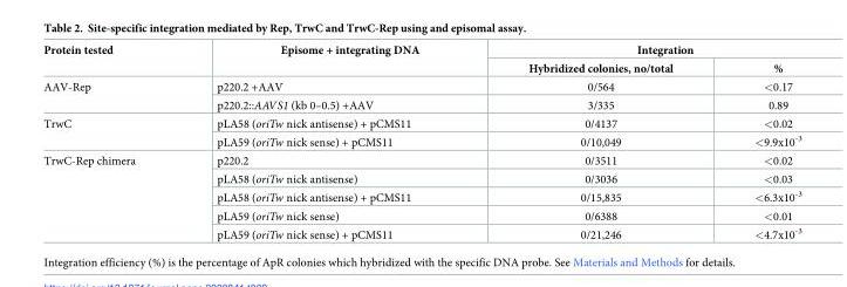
<table><thead><tr><td rowspan="2">Protein tested</td><td rowspan="2">Episome + integrating DNA</td><td colspan="2">Integration</td></tr><tr><td>Hybridized colonies, no/total</td><td>%</td></tr></thead><tbody><tr><td rowspan="2">AAV-Rep</td><td>p220.2 +AAV</td><td>0/564</td><td>&lt;0.17</td></tr><tr><td>p220.2::AAVS1 (kb 0–0.5) +AAV</td><td>3/335</td><td>0.89</td></tr><tr><td rowspan="2">TrwC</td><td>pLA58 (oriTw nick antisense) + pCMS11</td><td>0/4137</td><td>&lt;0.02</td></tr><tr><td>pLA59 (oriTw nick sense) + pCMS11</td><td>0/10,049</td><td>&lt;9.9x10<sup>-3</sup></td></tr><tr><td rowspan="5">TrwC-Rep chimera</td><td>p220.2</td><td>0/3511</td><td>&lt;0.02</td></tr><tr><td>pLA58 (oriTw nick antisense)</td><td>0/3036</td><td>&lt;0.03</td></tr><tr><td>pLA58 (oriTw nick antisense) + pCMS11</td><td>0/15,835</td><td>&lt;6.3x10<sup>-3</sup></td></tr><tr><td>pLA59 (oriTw nick sense)</td><td>0/6388</td><td>&lt;0.01</td></tr><tr><td>pLA59 (oriTw nick sense) + pCMS11</td><td>0/21,246</td><td>&lt;4.7x10<sup>-3</sup></td></tr></tbody></table>